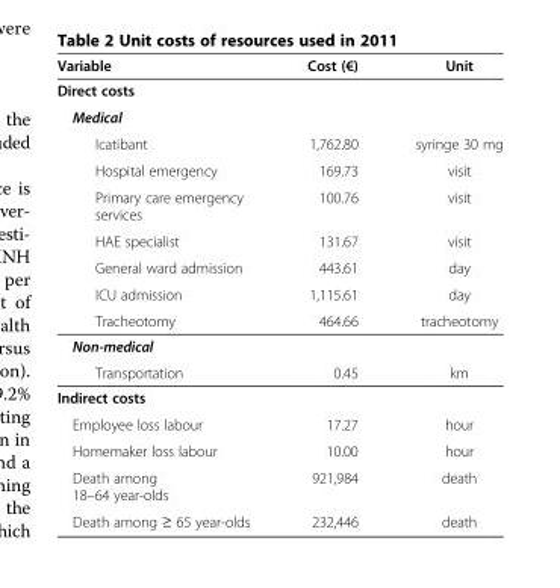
<table><thead><tr><td>Variable</td><td>Cost (€)</td><td>Unit</td></tr></thead><tbody><tr><td colspan="3">Direct costs</td></tr><tr><td colspan="3">Medical</td></tr><tr><td>Icatibant</td><td>1,762.80</td><td>syringe 30 mg</td></tr><tr><td>Hospital emergency</td><td>169.73</td><td>visit</td></tr><tr><td>Primary care emergency services</td><td>100.76</td><td>visit</td></tr><tr><td>HAE specialist</td><td>131.67</td><td>visit</td></tr><tr><td>General ward admission</td><td>443.61</td><td>day</td></tr><tr><td>ICU admission</td><td>1,115.61</td><td>day</td></tr><tr><td>Tracheotomy</td><td>464.66</td><td>tracheotomy</td></tr><tr><td colspan="3">Non-medical</td></tr><tr><td>Transportation</td><td>0.45</td><td>km</td></tr><tr><td colspan="3">Indirect costs</td></tr><tr><td>Employee loss labour</td><td>17.27</td><td>hour</td></tr><tr><td>Homemaker loss labour</td><td>10.00</td><td>hour</td></tr><tr><td>Death among 18–64 year-olds</td><td>921,984</td><td>death</td></tr><tr><td>Death among ≥ 65 year-olds</td><td>232,446</td><td>death</td></tr></tbody></table>